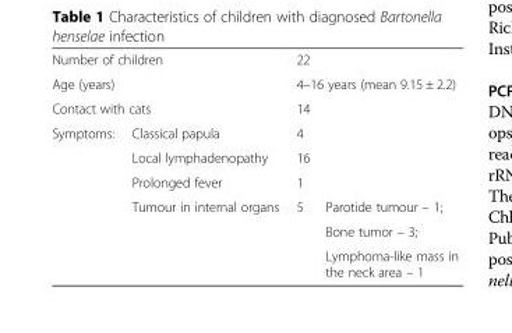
<table><tbody><tr><td colspan="2">Number of children</td><td colspan="2">22</td></tr><tr><td colspan="2">Age (years)</td><td colspan="2">4–16 years (mean 9.15 ± 2.2)</td></tr><tr><td colspan="2">Contact with cats</td><td colspan="2">14</td></tr><tr><td rowspan="6">Symptoms:</td><td>Classical papula</td><td colspan="2">4</td></tr><tr><td>Local lymphadenopathy</td><td colspan="2">16</td></tr><tr><td>Prolonged fever</td><td colspan="2">1</td></tr><tr><td rowspan="3">Tumour in internal organs</td><td rowspan="3">5</td><td>Parotide tumour – 1;</td></tr><tr><td>Bone tumor – 3;</td></tr><tr><td>Lymphoma-like mass in the neck area – 1</td></tr></tbody></table>